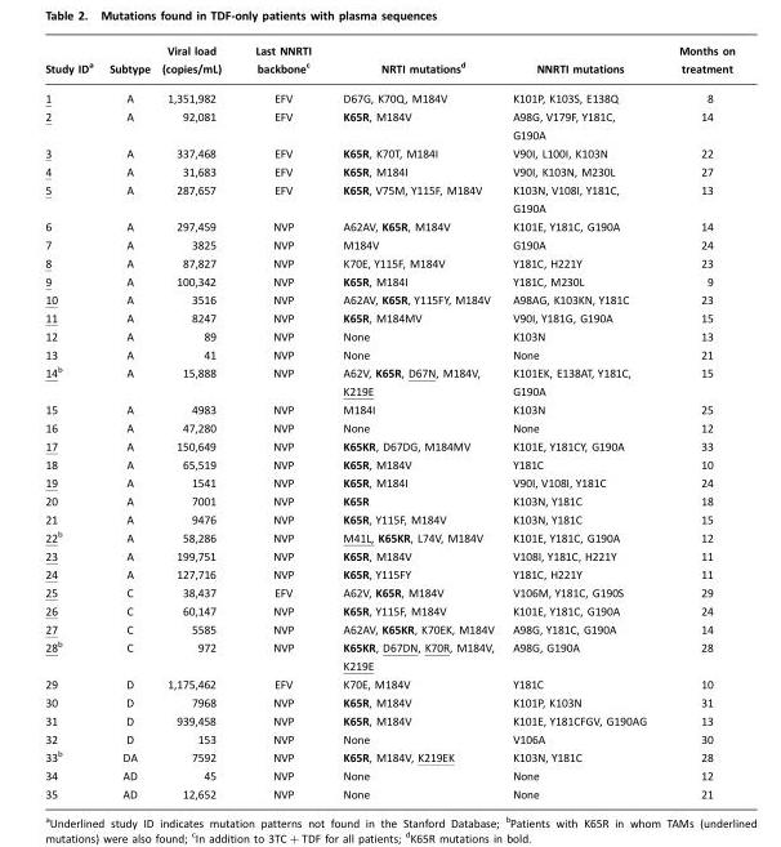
<table><thead><tr><td>Study ID<sup>a</sup></td><td>Subtype</td><td>Viral load (copies/mL)</td><td>Last NNRTI backbone<sup>c</sup></td><td>NRTI mutations<sup>d</sup></td><td>NNRTI mutations</td><td>Months on treatment</td></tr></thead><tbody><tr><td>1</td><td>A</td><td>1,351,982</td><td>EFV</td><td>D67G, K70Q, M184V</td><td>K101P, K103S, E138Q</td><td>8</td></tr><tr><td>2</td><td>A</td><td>92,081</td><td>EFV</td><td>K65R, M184V</td><td>A98G, V179F, Y181C, G190A</td><td>14</td></tr><tr><td>3</td><td>A</td><td>337,468</td><td>EFV</td><td>K65R, K70T, M184I</td><td>V90I, L100I, K103N</td><td>22</td></tr><tr><td>4</td><td>A</td><td>31,683</td><td>EFV</td><td>K65R, M184I</td><td>V90I, K103N, M230L</td><td>27</td></tr><tr><td>5</td><td>A</td><td>287,657</td><td>EFV</td><td>K65R, V75M, Y115F, M184V</td><td>K103N, V108I, Y181C, G190A</td><td>13</td></tr><tr><td>6</td><td>A</td><td>297,459</td><td>NVP</td><td>A62AV, K65R, M184V</td><td>K101E, Y181C, G190A</td><td>14</td></tr><tr><td>7</td><td>A</td><td>3825</td><td>NVP</td><td>M184V</td><td>G190A</td><td>24</td></tr><tr><td>8</td><td>A</td><td>87,827</td><td>NVP</td><td>K70E, Y115F, M184V</td><td>Y181C, H221Y</td><td>23</td></tr><tr><td>9</td><td>A</td><td>100,342</td><td>NVP</td><td>K65R, M184I</td><td>Y181C, M230L</td><td>9</td></tr><tr><td>10</td><td>A</td><td>3516</td><td>NVP</td><td>A62AV, K65R, Y115FY, M184V</td><td>A98AG, K103KN, Y181C</td><td>23</td></tr><tr><td>11</td><td>A</td><td>8247</td><td>NVP</td><td>K65R, M184MV</td><td>V90I, Y181G, G190A</td><td>15</td></tr><tr><td>12</td><td>A</td><td>89</td><td>NVP</td><td>None</td><td>K103N</td><td>13</td></tr><tr><td>13</td><td>A</td><td>41</td><td>NVP</td><td>None</td><td>None</td><td>21</td></tr><tr><td>14<sup>b</sup></td><td>A</td><td>15,888</td><td>NVP</td><td>A62V, K65R, D67N, M184V, K219E</td><td>K101EK, E138AT, Y181C, G190A</td><td>15</td></tr><tr><td>15</td><td>A</td><td>4983</td><td>NVP</td><td>M184I</td><td>K103N</td><td>25</td></tr><tr><td>16</td><td>A</td><td>47,280</td><td>NVP</td><td>None</td><td>None</td><td>12</td></tr><tr><td>17</td><td>A</td><td>150,649</td><td>NVP</td><td>K65KR, D67DG, M184MV</td><td>K101E, Y181CY, G190A</td><td>33</td></tr><tr><td>18</td><td>A</td><td>65,519</td><td>NVP</td><td>K65R, M184V</td><td>Y181C</td><td>10</td></tr><tr><td>19</td><td>A</td><td>1541</td><td>NVP</td><td>K65R, M184I</td><td>V90I, V108I, Y181C</td><td>24</td></tr><tr><td>20</td><td>A</td><td>7001</td><td>NVP</td><td>K65R</td><td>K103N, Y181C</td><td>18</td></tr><tr><td>21</td><td>A</td><td>9476</td><td>NVP</td><td>K65R, Y115F, M184V</td><td>K103N, Y181C</td><td>15</td></tr><tr><td>22<sup>b</sup></td><td>A</td><td>58,286</td><td>NVP</td><td>M41L, K65KR, L74V, M184V</td><td>K101E, Y181C, G190A</td><td>12</td></tr><tr><td>23</td><td>A</td><td>199,751</td><td>NVP</td><td>K65R, M184V</td><td>V108I, Y181C, H221Y</td><td>11</td></tr><tr><td>24</td><td>A</td><td>127,716</td><td>NVP</td><td>K65R, Y115FY</td><td>Y181C, H221Y</td><td>11</td></tr><tr><td>25</td><td>C</td><td>38,437</td><td>EFV</td><td>A62V, K65R, M184V</td><td>V106M, Y181C, G190S</td><td>29</td></tr><tr><td>26</td><td>C</td><td>60,147</td><td>NVP</td><td>K65R, Y115F, M184V</td><td>K101E, Y181C, G190A</td><td>24</td></tr><tr><td>27</td><td>C</td><td>5585</td><td>NVP</td><td>A62AV, K65KR, K70EK, M184V</td><td>A98G, Y181C, G190A</td><td>14</td></tr><tr><td>28<sup>b</sup></td><td>C</td><td>972</td><td>NVP</td><td>K65KR, D67DN, K70R, M184V, K219E</td><td>A98G, G190A</td><td>28</td></tr><tr><td>29</td><td>D</td><td>1,175,462</td><td>EFV</td><td>K70E, M184V</td><td>Y181C</td><td>10</td></tr><tr><td>30</td><td>D</td><td>7968</td><td>NVP</td><td>K65R, M184V</td><td>K101P, K103N</td><td>31</td></tr><tr><td>31</td><td>D</td><td>939,458</td><td>NVP</td><td>K65R, M184V</td><td>K101E, Y181CFGV, G190AG</td><td>13</td></tr><tr><td>32</td><td>D</td><td>153</td><td>NVP</td><td>None</td><td>V106A</td><td>30</td></tr><tr><td>33<sup>b</sup></td><td>DA</td><td>7592</td><td>NVP</td><td>K65R, M184V, K219EK</td><td>K103N, Y181C</td><td>28</td></tr><tr><td>34</td><td>AD</td><td>45</td><td>NVP</td><td>None</td><td>None</td><td>12</td></tr><tr><td>35</td><td>AD</td><td>12,652</td><td>NVP</td><td>None</td><td>None</td><td>21</td></tr></tbody></table>